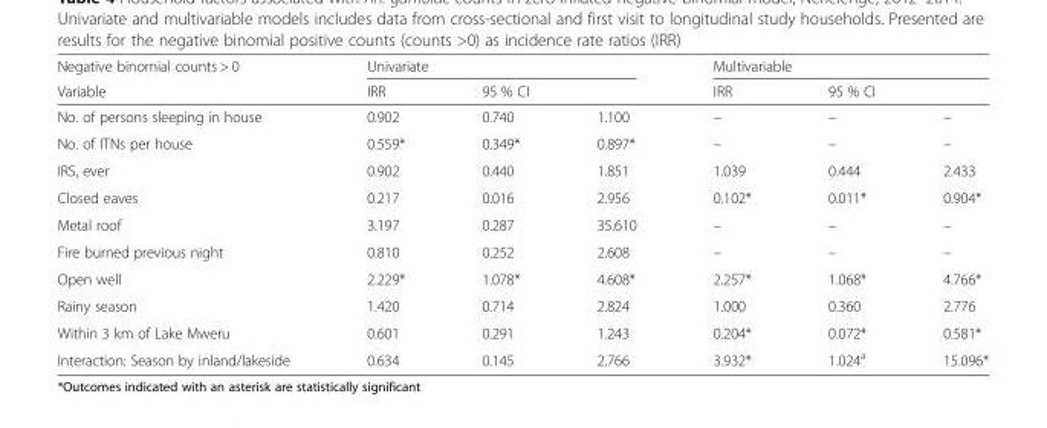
<table><thead><tr><td rowspan="3">Negative binomial counts &gt; 0 Variable No. of persons sleeping in house</td><td colspan="3">Univariate</td><td colspan="3">Multivariable</td></tr><tr><td rowspan="2">IRR 0.902</td><td colspan="2">95 % CI</td><td rowspan="2">IRR –</td><td colspan="2">95 % CI</td></tr><tr><td>0.740</td><td>1.100</td><td>–</td><td>–</td></tr></thead><tbody><tr><td>No. of ITNs per house</td><td>0.559*</td><td>0.349*</td><td>0.897*</td><td>–</td><td>–</td><td>–</td></tr><tr><td>IRS, ever</td><td>0.902</td><td>0.440</td><td>1.851</td><td>1.039</td><td>0.444</td><td>2.433</td></tr><tr><td>Closed eaves</td><td>0.217</td><td>0.016</td><td>2.956</td><td>0.102*</td><td>0.011*</td><td>0.904*</td></tr><tr><td>Metal roof</td><td>3.197</td><td>0.287</td><td>35.610</td><td>–</td><td>–</td><td>–</td></tr><tr><td>Fire burned previous night</td><td>0.810</td><td>0.252</td><td>2.608</td><td>–</td><td>–</td><td>–</td></tr><tr><td>Open well</td><td>2.229*</td><td>1.078*</td><td>4.608*</td><td>2.257*</td><td>1.068*</td><td>4.766*</td></tr><tr><td>Rainy season</td><td>1.420</td><td>0.714</td><td>2.824</td><td>1.000</td><td>0.360</td><td>2.776</td></tr><tr><td>Within 3 km of Lake Mweru</td><td>0.601</td><td>0.291</td><td>1.243</td><td>0.204*</td><td>0.072*</td><td>0.581*</td></tr><tr><td>Interaction: Season by inland/lakeside</td><td>0.634</td><td>0.145</td><td>2.766</td><td>3.932*</td><td>1.024<sup>a</sup></td><td>15.096*</td></tr></tbody></table>